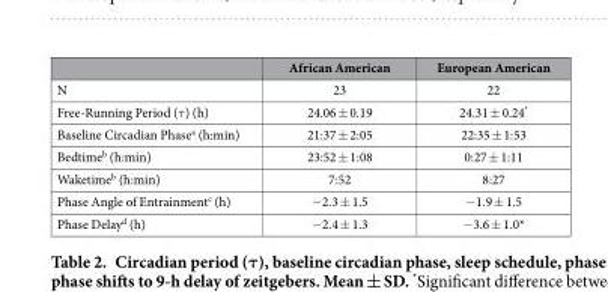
<table><thead><tr><td></td><td>African American</td><td>European American</td></tr></thead><tbody><tr><td>N</td><td>23</td><td>22</td></tr><tr><td>Free-Running Period (τ ) (h)</td><td>24.06 ± 0.19</td><td>24.31 ± 0.24*</td></tr><tr><td>Baseline Circadian Phase<sup>a</sup> (h:min)</td><td>21:37 ± 2:05</td><td>22:35 ± 1:53</td></tr><tr><td>Bedtime<sup>b</sup> (h:min)</td><td>23:52 ± 1:08</td><td>0:27 ± 1:11</td></tr><tr><td>Waketime<sup>b</sup> (h:min)</td><td>7:52</td><td>8:27</td></tr><tr><td>Phase Angle of Entrainment<sup>c</sup> (h)</td><td>− 2.3 ± 1.5</td><td>− 1.9 ± 1.5</td></tr><tr><td>Phase Delay<sup>d</sup> (h)</td><td>− 2.4 ± 1.3</td><td>− 3.6 ± 1.0*</td></tr></tbody></table>